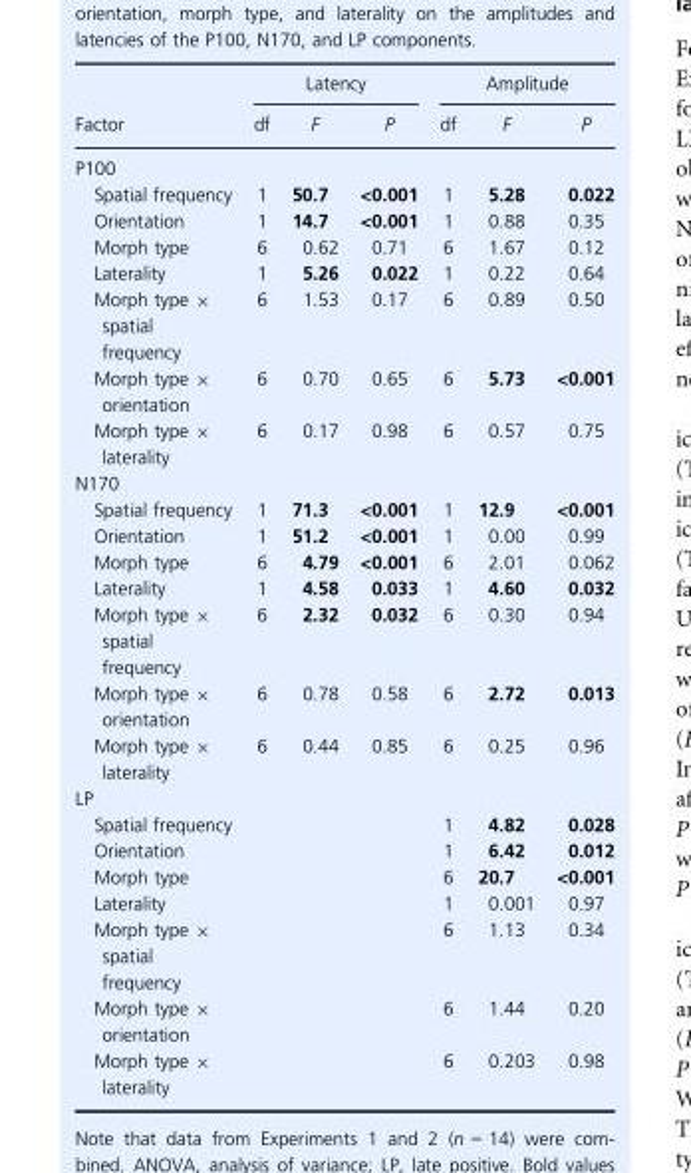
<table><thead><tr><td rowspan="2">Factor</td><td colspan="3">Latency</td><td colspan="3">Amplitude</td></tr><tr><td>df</td><td>F</td><td>P</td><td>df</td><td>F</td><td>P</td></tr></thead><tbody><tr><td colspan="7">P100</td></tr><tr><td>Spatial frequency</td><td>1</td><td>50.7</td><td>&lt;0.001</td><td>1</td><td>5.28</td><td>0.022</td></tr><tr><td>Orientation</td><td>1</td><td>14.7</td><td>&lt;0.001</td><td>1</td><td>0.88</td><td>0.35</td></tr><tr><td>Morph type</td><td>6</td><td>0.62</td><td>0.71</td><td>6</td><td>1.67</td><td>0.12</td></tr><tr><td>Laterality</td><td>1</td><td>5.26</td><td>0.022</td><td>1</td><td>0.22</td><td>0.64</td></tr><tr><td>Morph type × spatial frequency</td><td>6</td><td>1.53</td><td>0.17</td><td>6</td><td>0.89</td><td>0.50</td></tr><tr><td>Morph type × orientation</td><td>6</td><td>0.70</td><td>0.65</td><td>6</td><td>5.73</td><td>&lt;0.001</td></tr><tr><td>Morph type × laterality</td><td>6</td><td>0.17</td><td>0.98</td><td>6</td><td>0.57</td><td>0.75</td></tr><tr><td colspan="7">N170</td></tr><tr><td>Spatial frequency</td><td>1</td><td>71.3</td><td>&lt;0.001</td><td>1</td><td>12.9</td><td>&lt;0.001</td></tr><tr><td>Orientation</td><td>1</td><td>51.2</td><td>&lt;0.001</td><td>1</td><td>0.00</td><td>0.99</td></tr><tr><td>Morph type</td><td>6</td><td>4.79</td><td>&lt;0.001</td><td>6</td><td>2.01</td><td>0.062</td></tr><tr><td>Laterality</td><td>1</td><td>4.58</td><td>0.033</td><td>1</td><td>4.60</td><td>0.032</td></tr><tr><td>Morph type × spatial frequency</td><td>6</td><td>2.32</td><td>0.032</td><td>6</td><td>0.30</td><td>0.94</td></tr><tr><td>Morph type × orientation</td><td>6</td><td>0.78</td><td>0.58</td><td>6</td><td>2.72</td><td>0.013</td></tr><tr><td>Morph type × laterality</td><td>6</td><td>0.44</td><td>0.85</td><td>6</td><td>0.25</td><td>0.96</td></tr><tr><td colspan="7">LP</td></tr><tr><td>Spatial frequency</td><td></td><td></td><td></td><td>1</td><td>4.82</td><td>0.028</td></tr><tr><td>Orientation</td><td></td><td></td><td></td><td>1</td><td>6.42</td><td>0.012</td></tr><tr><td>Morph type</td><td></td><td></td><td></td><td>6</td><td>20.7</td><td>&lt;0.001</td></tr><tr><td>Laterality</td><td></td><td></td><td></td><td>1</td><td>0.001</td><td>0.97</td></tr><tr><td>Morph type × spatial frequency</td><td></td><td></td><td></td><td>6</td><td>1.13</td><td>0.34</td></tr><tr><td>Morph type × orientation</td><td></td><td></td><td></td><td>6</td><td>1.44</td><td>0.20</td></tr><tr><td>Morph type × laterality</td><td></td><td></td><td></td><td>6</td><td>0.203</td><td>0.98</td></tr></tbody></table>